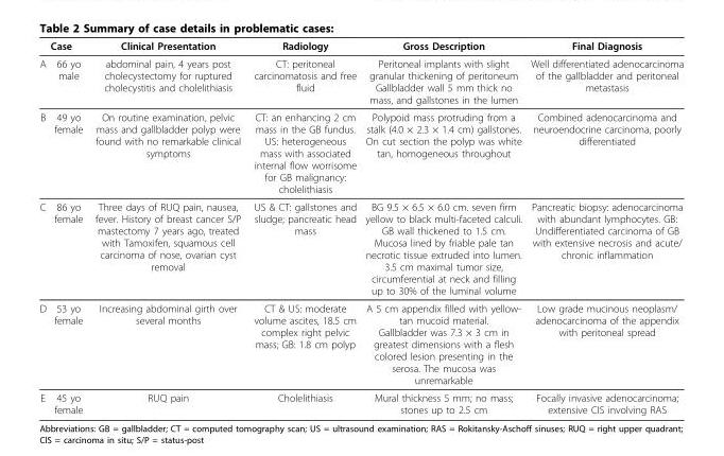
<table><thead><tr><td colspan="2">Case</td><td rowspan="2">Clinical Presentation abdominal pain, 4 years post cholecystectomy for ruptured cholecystitis and cholelithiasis</td><td rowspan="2">Radiology CT: peritoneal carcinomatosis and free fluid</td><td rowspan="2">Gross Description Peritoneal implants with slight granular thickening of peritoneum Gallbladder wall 5 mm thick no mass, and gallstones in the lumen</td><td rowspan="2">Final Diagnosis Well differentiated adenocarcinoma of the gallbladder and peritoneal metastasis</td></tr><tr><td>A</td><td>66 yo male</td></tr></thead><tbody><tr><td>B</td><td>49 yo female</td><td>On routine examination, pelvic mass and gallbladder polyp were found with no remarkable clinical symptoms</td><td>CT: an enhancing 2 cm mass in the GB fundus. US: heterogeneous mass with associated internal flow worrisome for GB malignancy: cholelithiasis</td><td>Polypoid mass protruding from a stalk (4.0 × 2.3 × 1.4 cm) gallstones. On cut section the polyp was white tan, homogeneous throughout</td><td>Combined adenocarcinoma and neuroendocrine carcinoma, poorly differentiated</td></tr><tr><td>C</td><td>86 yo female</td><td>Three days of RUQ pain, nausea, fever. History of breast cancer S/P mastectomy 7 years ago, treated with Tamoxifen, squamous cell carcinoma of nose, ovarian cyst removal</td><td>US &amp; CT: gallstones and sludge; pancreatic head mass</td><td>BG 9.5 × 6.5 × 6.0 cm. seven firm yellow to black multi-faceted calculi. GB wall thickened to 1.5 cm. Mucosa lined by friable pale tan necrotic tissue extruded into lumen. 3.5 cm maximal tumor size, circumferential at neck and filling up to 30% of the luminal volume</td><td>Pancreatic biopsy: adenocarcinoma with abundant lymphocytes. GB: Undifferentiated carcinoma of GB with extensive necrosis and acute/ chronic inflammation</td></tr><tr><td>D</td><td>53 yo female</td><td>Increasing abdominal girth over several months</td><td>CT &amp; US: moderate volume ascites, 18.5 cm complex right pelvic mass; GB: 1.8 cm polyp</td><td>A 5 cm appendix filled with yellow- tan mucoid material. Gallbladder was 7.3 × 3 cm in greatest dimensions with a flesh colored lesion presenting in the serosa. The mucosa was unremarkable</td><td>Low grade mucinous neoplasm/ adenocarcinoma of the appendix with peritoneal spread</td></tr><tr><td>E</td><td>45 yo female</td><td>RUQ pain</td><td>Cholelithiasis</td><td>Mural thickness 5 mm; no mass; stones up to 2.5 cm</td><td>Focally invasive adenocarcinoma; extensive CIS involving RAS</td></tr></tbody></table>